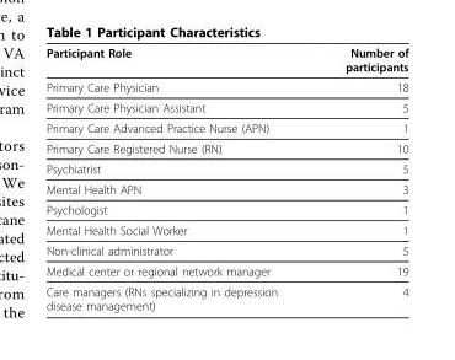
<table><thead><tr><td>Participant Role</td><td>Number of participants</td></tr></thead><tbody><tr><td>Primary Care Physician</td><td>18</td></tr><tr><td>Primary Care Physician Assistant</td><td>5</td></tr><tr><td>Primary Care Advanced Practice Nurse (APN)</td><td>1</td></tr><tr><td>Primary Care Registered Nurse (RN)</td><td>10</td></tr><tr><td>Psychiatrist</td><td>5</td></tr><tr><td>Mental Health APN</td><td>3</td></tr><tr><td>Psychologist</td><td>1</td></tr><tr><td>Mental Health Social Worker</td><td>1</td></tr><tr><td>Non-clinical administrator</td><td>5</td></tr><tr><td>Medical center or regional network manager</td><td>19</td></tr><tr><td>Care managers (RNs specializing in depression disease management)</td><td>4</td></tr></tbody></table>